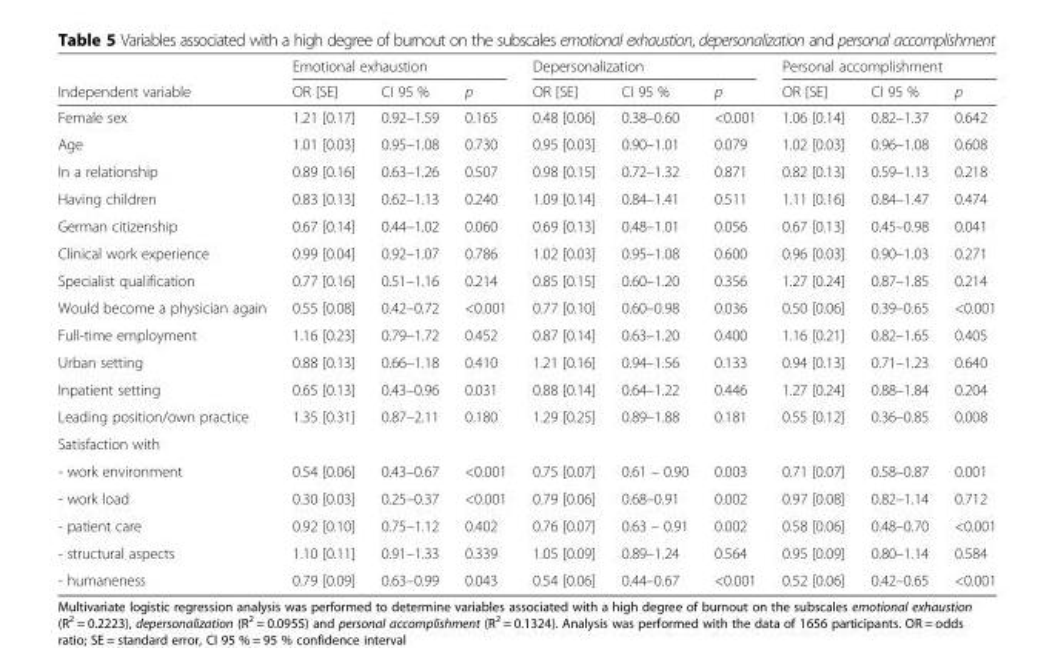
<table><thead><tr><td rowspan="2">Independent variable</td><td colspan="3">Emotional exhaustion</td><td colspan="3">Depersonalization</td><td colspan="3">Personal accomplishment</td></tr><tr><td>OR [SE]</td><td>CI 95 %</td><td>p</td><td>OR [SE]</td><td>CI 95 %</td><td>p</td><td>OR [SE]</td><td>CI 95 %</td><td>p</td></tr></thead><tbody><tr><td>Female sex</td><td>1.21 [0.17]</td><td>0.92–1.59</td><td>0.165</td><td>0.48 [0.06]</td><td>0.38–0.60</td><td>&lt;0.001</td><td>1.06 [0.14]</td><td>0.82–1.37</td><td>0.642</td></tr><tr><td>Age</td><td>1.01 [0.03]</td><td>0.95–1.08</td><td>0.730</td><td>0.95 [0.03]</td><td>0.90–1.01</td><td>0.079</td><td>1.02 [0.03]</td><td>0.96–1.08</td><td>0.608</td></tr><tr><td>In a relationship</td><td>0.89 [0.16]</td><td>0.63–1.26</td><td>0.507</td><td>0.98 [0.15]</td><td>0.72–1.32</td><td>0.871</td><td>0.82 [0.13]</td><td>0.59–1.13</td><td>0.218</td></tr><tr><td>Having children</td><td>0.83 [0.13]</td><td>0.62–1.13</td><td>0.240</td><td>1.09 [0.14]</td><td>0.84–1.41</td><td>0.511</td><td>1.11 [0.16]</td><td>0.84–1.47</td><td>0.474</td></tr><tr><td>German citizenship</td><td>0.67 [0.14]</td><td>0.44–1.02</td><td>0.060</td><td>0.69 [0.13]</td><td>0.48–1.01</td><td>0.056</td><td>0.67 [0.13]</td><td>0.45–0.98</td><td>0.041</td></tr><tr><td>Clinical work experience</td><td>0.99 [0.04]</td><td>0.92–1.07</td><td>0.786</td><td>1.02 [0.03]</td><td>0.95–1.08</td><td>0.600</td><td>0.96 [0.03]</td><td>0.90–1.03</td><td>0.271</td></tr><tr><td>Specialist qualification</td><td>0.77 [0.16]</td><td>0.51–1.16</td><td>0.214</td><td>0.85 [0.15]</td><td>0.60–1.20</td><td>0.356</td><td>1.27 [0.24]</td><td>0.87–1.85</td><td>0.214</td></tr><tr><td>Would become a physician again</td><td>0.55 [0.08]</td><td>0.42–0.72</td><td>&lt;0.001</td><td>0.77 [0.10]</td><td>0.60–0.98</td><td>0.036</td><td>0.50 [0.06]</td><td>0.39–0.65</td><td>&lt;0.001</td></tr><tr><td>Full-time employment</td><td>1.16 [0.23]</td><td>0.79–1.72</td><td>0.452</td><td>0.87 [0.14]</td><td>0.63–1.20</td><td>0.400</td><td>1.16 [0.21]</td><td>0.82–1.65</td><td>0.405</td></tr><tr><td>Urban setting</td><td>0.88 [0.13]</td><td>0.66–1.18</td><td>0.410</td><td>1.21 [0.16]</td><td>0.94–1.56</td><td>0.133</td><td>0.94 [0.13]</td><td>0.71–1.23</td><td>0.640</td></tr><tr><td>Inpatient setting</td><td>0.65 [0.13]</td><td>0.43–0.96</td><td>0.031</td><td>0.88 [0.14]</td><td>0.64–1.22</td><td>0.446</td><td>1.27 [0.24]</td><td>0.88–1.84</td><td>0.204</td></tr><tr><td>Leading position/own practice</td><td>1.35 [0.31]</td><td>0.87–2.11</td><td>0.180</td><td>1.29 [0.25]</td><td>0.89–1.88</td><td>0.181</td><td>0.55 [0.12]</td><td>0.36–0.85</td><td>0.008</td></tr><tr><td colspan="10">Satisfaction with</td></tr><tr><td>- work environment</td><td>0.54 [0.06]</td><td>0.43–0.67</td><td>&lt;0.001</td><td>0.75 [0.07]</td><td>0.61 – 0.90</td><td>0.003</td><td>0.71 [0.07]</td><td>0.58–0.87</td><td>0.001</td></tr><tr><td>- work load</td><td>0.30 [0.03]</td><td>0.25–0.37</td><td>&lt;0.001</td><td>0.79 [0.06]</td><td>0.68–0.91</td><td>0.002</td><td>0.97 [0.08]</td><td>0.82–1.14</td><td>0.712</td></tr><tr><td>- patient care</td><td>0.92 [0.10]</td><td>0.75–1.12</td><td>0.402</td><td>0.76 [0.07]</td><td>0.63 – 0.91</td><td>0.002</td><td>0.58 [0.06]</td><td>0.48–0.70</td><td>&lt;0.001</td></tr><tr><td>- structural aspects</td><td>1.10 [0.11]</td><td>0.91–1.33</td><td>0.339</td><td>1.05 [0.09]</td><td>0.89–1.24</td><td>0.564</td><td>0.95 [0.09]</td><td>0.80–1.14</td><td>0.584</td></tr><tr><td>- humaneness</td><td>0.79 [0.09]</td><td>0.63–0.99</td><td>0.043</td><td>0.54 [0.06]</td><td>0.44–0.67</td><td>&lt;0.001</td><td>0.52 [0.06]</td><td>0.42–0.65</td><td>&lt;0.001</td></tr></tbody></table>